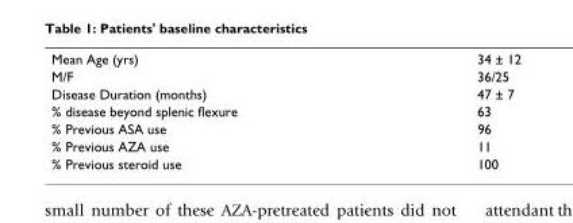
<table><tbody><tr><td>Mean Age (yrs)</td><td>34 ± 12</td></tr><tr><td>M/F</td><td>36/25</td></tr><tr><td>Disease Duration (months)</td><td>47 ± 7</td></tr><tr><td>% disease beyond splenic flexure</td><td>63</td></tr><tr><td>% Previous ASA use</td><td>96</td></tr><tr><td>% Previous AZA use</td><td>11</td></tr><tr><td>% Previous steroid use</td><td>100</td></tr></tbody></table>